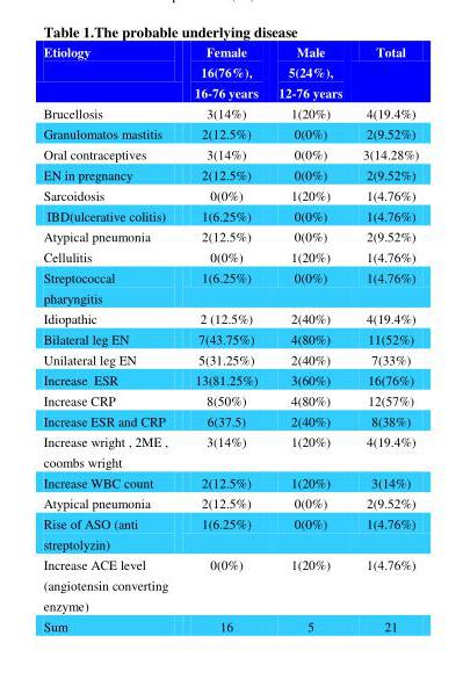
<table><thead><tr><td>Etiology</td><td>Female 16(76%), 16-76 years</td><td>Male 5(24%), 12-76 years</td><td>Total</td></tr></thead><tbody><tr><td>Brucellosis</td><td>3(14%)</td><td>1(20%)</td><td>4(19.4%)</td></tr><tr><td>Granulomatos mastitis</td><td>2(12.5%)</td><td>0(0%)</td><td>2(9.52%)</td></tr><tr><td>Oral contraceptives</td><td>3(14%)</td><td>0(0%)</td><td>3(14.28%)</td></tr><tr><td>EN in pregnancy</td><td>2(12.5%)</td><td>0(0%)</td><td>2(9.52%)</td></tr><tr><td>Sarcoidosis</td><td>0(0%)</td><td>1(20%)</td><td>1(4.76%)</td></tr><tr><td>IBD(ulcerative colitis)</td><td>1(6.25%)</td><td>0(0%)</td><td>1(4.76%)</td></tr><tr><td>Atypical pneumonia</td><td>2(12.5%)</td><td>0(0%)</td><td>2(9.52%)</td></tr><tr><td>Cellulitis</td><td>0(0%)</td><td>1(20%)</td><td>1(4.76%)</td></tr><tr><td>Streptococcal pharyngitis</td><td>1(6.25%)</td><td>0(0%)</td><td>1(4.76%)</td></tr><tr><td>Idiopathic</td><td>2 (12.5%)</td><td>2(40%)</td><td>4(19.4%)</td></tr><tr><td>Bilateral leg EN</td><td>7(43.75%)</td><td>4(80%)</td><td>11(52%)</td></tr><tr><td>Unilateral leg EN</td><td>5(31.25%)</td><td>2(40%)</td><td>7(33%)</td></tr><tr><td>Increase ESR</td><td>13(81.25%)</td><td>3(60%)</td><td>16(76%)</td></tr><tr><td>Increase CRP</td><td>8(50%)</td><td>4(80%)</td><td>12(57%)</td></tr><tr><td>Increase ESR and CRP</td><td>6(37.5)</td><td>2(40%)</td><td>8(38%)</td></tr><tr><td>Increase wright , 2ME , coombs wright</td><td>3(14%)</td><td>1(20%)</td><td>4(19.4%)</td></tr><tr><td>Increase WBC count</td><td>2(12.5%)</td><td>1(20%)</td><td>3(14%)</td></tr><tr><td>Atypical pneumonia</td><td>2(12.5%)</td><td>0(0%)</td><td>2(9.52%)</td></tr><tr><td>Rise of ASO (anti streptolyzin)</td><td>1(6.25%)</td><td>0(0%)</td><td>1(4.76%)</td></tr><tr><td>Increase ACE level (angiotensin converting enzyme)</td><td>0(0%)</td><td>1(20%)</td><td>1(4.76%)</td></tr><tr><td>Sum</td><td>16</td><td>5</td><td>21</td></tr></tbody></table>